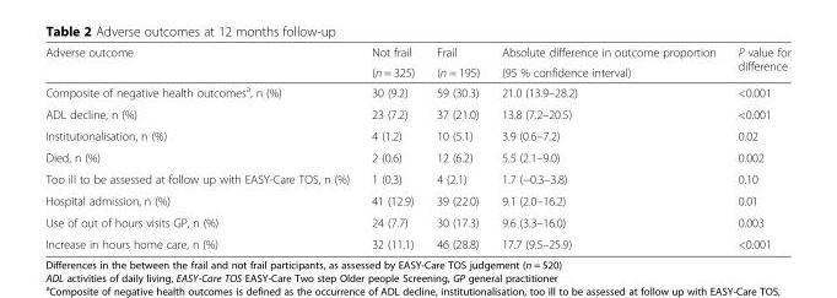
<table><thead><tr><td rowspan="2">Adverse outcome</td><td rowspan="2">Not frail (n = 325)</td><td rowspan="2">Frail (n = 195)</td><td rowspan="2">Absolute difference in outcome proportion (95 % confidence interval)</td><td rowspan="2">P value for difference</td></tr><tr></tr></thead><tbody><tr><td>Composite of negative health outcomes<sup>a</sup>, n (%)</td><td>30 (9.2)</td><td>59 (30.3)</td><td>21.0 (13.9–28.2)</td><td>&lt;0.001</td></tr><tr><td>ADL decline, n (%)</td><td>23 (7.2)</td><td>37 (21.0)</td><td>13.8 (7.2–20.5)</td><td>&lt;0.001</td></tr><tr><td>Institutionalisation, n (%)</td><td>4 (1.2)</td><td>10 (5.1)</td><td>3.9 (0.6–7.2)</td><td>0.02</td></tr><tr><td>Died, n (%)</td><td>2 (0.6)</td><td>12 (6.2)</td><td>5.5 (2.1–9.0)</td><td>0.002</td></tr><tr><td>Too ill to be assessed at follow up with EASY-Care TOS, n (%)</td><td>1 (0.3)</td><td>4 (2.1)</td><td>1.7 (−0.3–3.8)</td><td>0.10</td></tr><tr><td>Hospital admission, n (%)</td><td>41 (12.9)</td><td>39 (22.0)</td><td>9.1 (2.0–16.2)</td><td>0.01</td></tr><tr><td>Use of out of hours visits GP, n (%)</td><td>24 (7.7)</td><td>30 (17.3)</td><td>9.6 (3.3–16.0)</td><td>0.003</td></tr><tr><td>Increase in hours home care, n (%)</td><td>32 (11.1)</td><td>46 (28.8)</td><td>17.7 (9.5–25.9)</td><td>&lt;0.001</td></tr></tbody></table>